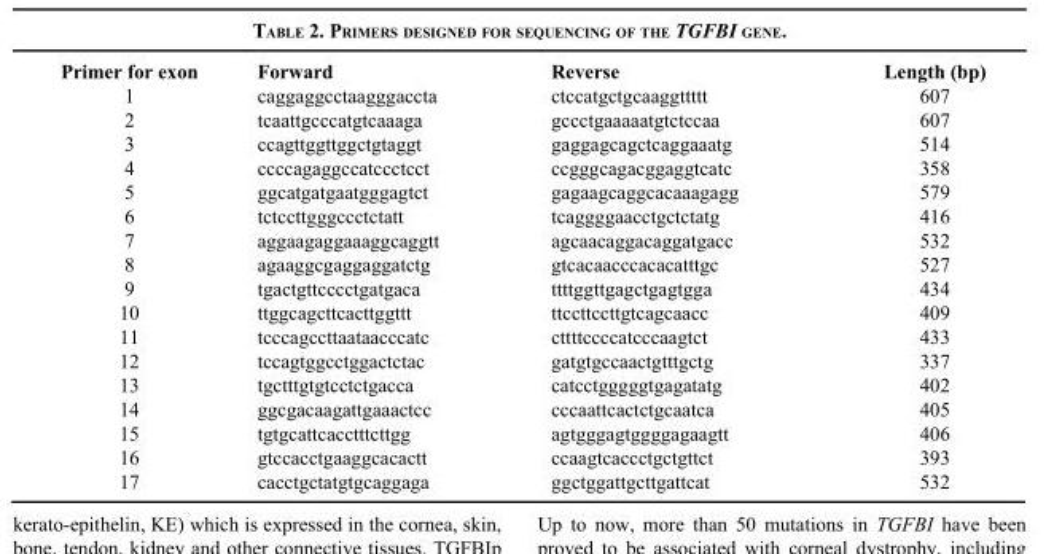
<table><thead><tr><td>Primer for exon</td><td>Forward</td><td>Reverse</td><td>Length (bp)</td></tr></thead><tbody><tr><td>1</td><td>caggaggcctaagggaccta</td><td>ctccatgctgcaaggttttt</td><td>607</td></tr><tr><td>2</td><td>tcaattgcccatgtcaaaga</td><td>gccctgaaaaatgtctccaa</td><td>607</td></tr><tr><td>3</td><td>ccagttggttggctgtaggt</td><td>gaggagcagctcaggaaatg</td><td>514</td></tr><tr><td>4</td><td>ccccagaggccatccctcct</td><td>ccgggcagacggaggtcatc</td><td>358</td></tr><tr><td>5</td><td>ggcatgatgaatgggagtct</td><td>gagaagcaggcacaaagagg</td><td>579</td></tr><tr><td>6</td><td>tctccttgggccctctatt</td><td>tcaggggaacctgctctatg</td><td>416</td></tr><tr><td>7</td><td>aggaagaggaaaggcaggtt</td><td>agcaacaggacaggatgacc</td><td>532</td></tr><tr><td>8</td><td>agaaggcgaggaggatctg</td><td>gtcacaacccacacatttgc</td><td>527</td></tr><tr><td>9</td><td>tgactgttcccctgatgaca</td><td>ttttggttgagctgagtgga</td><td>434</td></tr><tr><td>10</td><td>ttggcagcttcacttggttt</td><td>ttccttccttgtcagcaacc</td><td>409</td></tr><tr><td>11</td><td>tcccagccttaataacccatc</td><td>cttttccccatcccaagtct</td><td>433</td></tr><tr><td>12</td><td>tccagtggcctggactctac</td><td>gatgtgccaactgtttgctg</td><td>337</td></tr><tr><td>13</td><td>tgctttgtgtcctctgacca</td><td>catcctgggggtgagatatg</td><td>402</td></tr><tr><td>14</td><td>ggcgacaagattgaaactcc</td><td>cccaattcactctgcaatca</td><td>405</td></tr><tr><td>15</td><td>tgtgcattcacctttcttgg</td><td>agtgggagtggggagaagtt</td><td>406</td></tr><tr><td>16</td><td>gtccacctgaaggcacactt</td><td>ccaagtcaccctgctgttct</td><td>393</td></tr><tr><td>17</td><td>cacctgctatgtgcaggaga</td><td>ggctggattgcttgattcat</td><td>532</td></tr></tbody></table>